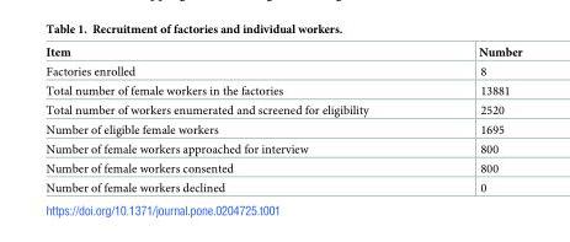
<table><thead><tr><td>Item</td><td>Number</td></tr></thead><tbody><tr><td>Factories enrolled</td><td>8</td></tr><tr><td>Total number of female workers in the factories</td><td>13881</td></tr><tr><td>Total number of workers enumerated and screened for eligibility</td><td>2520</td></tr><tr><td>Number of eligible female workers</td><td>1695</td></tr><tr><td>Number of female workers approached for interview</td><td>800</td></tr><tr><td>Number of female workers consented</td><td>800</td></tr><tr><td>Number of female workers declined</td><td>0</td></tr></tbody></table>